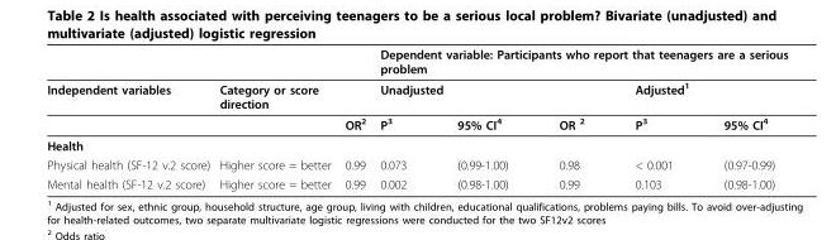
<table><thead><tr><td rowspan="3">Independent variables</td><td></td><td></td><td colspan="5">Dependent variable: Participants who report that teenagers are a serious problem</td></tr><tr><td colspan="2">Category or score direction</td><td colspan="3">Unadjusted</td><td colspan="2">Adjusted<sup>1</sup></td></tr><tr><td></td><td>OR<sup>2</sup></td><td>P<sup>3</sup></td><td>95% CI<sup>4</sup></td><td>OR <sup>2</sup></td><td>P<sup>3</sup></td><td>95% CI<sup>4</sup></td></tr></thead><tbody><tr><td colspan="8">Health</td></tr><tr><td>Physical health (SF-12 v.2 score)</td><td>Higher score = better</td><td>0.99</td><td>0.073</td><td>(0.99-1.00)</td><td>0.98</td><td>&lt; 0.001</td><td>(0.97-0.99)</td></tr><tr><td>Mental health (SF-12 v.2 score)</td><td>Higher score = better</td><td>0.99</td><td>0.002</td><td>(0.98-1.00)</td><td>0.99</td><td>0.103</td><td>(0.98-1.00)</td></tr></tbody></table>